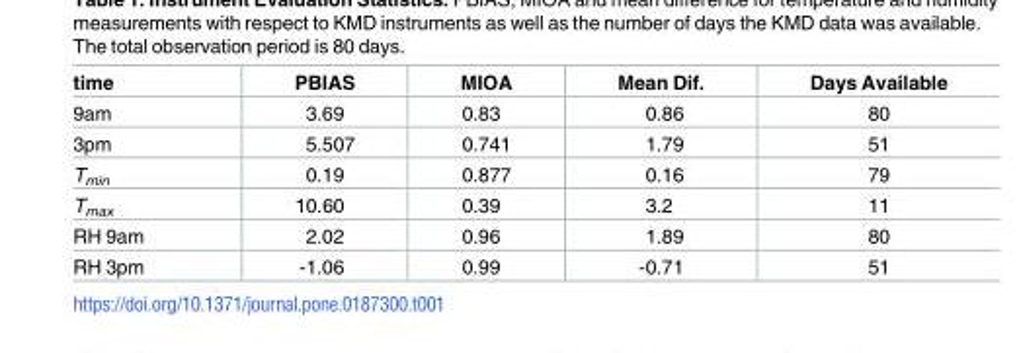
<table><thead><tr><td>time</td><td>PBIAS</td><td>MIOA</td><td>Mean Dif.</td><td>Days Available</td></tr></thead><tbody><tr><td>9am</td><td>3.69</td><td>0.83</td><td>0.86</td><td>80</td></tr><tr><td>3pm</td><td>5.507</td><td>0.741</td><td>1.79</td><td>51</td></tr><tr><td>T<sub>min</sub></td><td>0.19</td><td>0.877</td><td>0.16</td><td>79</td></tr><tr><td>T<sub>max</sub></td><td>10.60</td><td>0.39</td><td>3.2</td><td>11</td></tr><tr><td>RH 9am</td><td>2.02</td><td>0.96</td><td>1.89</td><td>80</td></tr><tr><td>RH 3pm</td><td>-1.06</td><td>0.99</td><td>-0.71</td><td>51</td></tr></tbody></table>